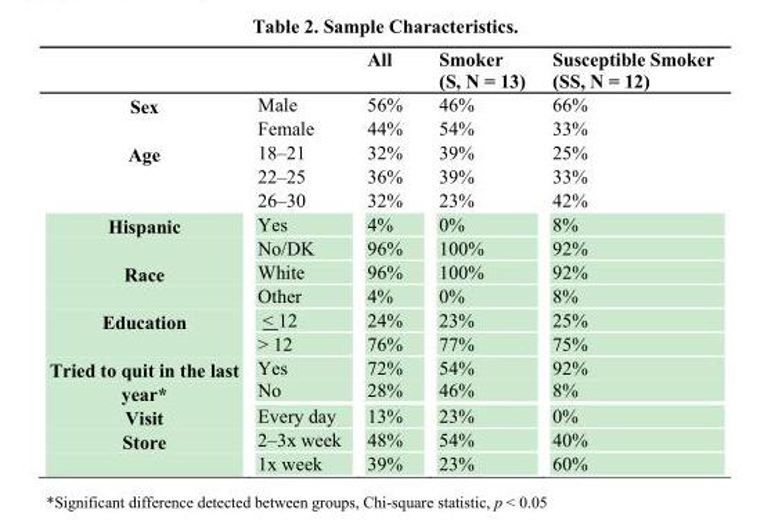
<table><thead><tr><td></td><td></td><td>All</td><td>Smoker (S, N = 13)</td><td>Susceptible Smoker (SS, N = 12)</td></tr></thead><tbody><tr><td rowspan="2">Sex</td><td>Male</td><td>56%</td><td>46%</td><td>66%</td></tr><tr><td>Female</td><td>44%</td><td>54%</td><td>33%</td></tr><tr><td rowspan="3">Age</td><td>18–21</td><td>32%</td><td>39%</td><td>25%</td></tr><tr><td>22–25</td><td>36%</td><td>39%</td><td>33%</td></tr><tr><td>26–30</td><td>32%</td><td>23%</td><td>42%</td></tr><tr><td rowspan="2">Hispanic</td><td>Yes</td><td>4%</td><td>0%</td><td>8%</td></tr><tr><td>No/DK</td><td>96%</td><td>100%</td><td>92%</td></tr><tr><td rowspan="2">Race</td><td>White</td><td>96%</td><td>100%</td><td>92%</td></tr><tr><td>Other</td><td>4%</td><td>0%</td><td>8%</td></tr><tr><td rowspan="2">Education</td><td>&lt; 12</td><td>24%</td><td>23%</td><td>25%</td></tr><tr><td>&gt; 12</td><td>76%</td><td>77%</td><td>75%</td></tr><tr><td rowspan="2">Tried to quit in the last year*</td><td>Yes</td><td>72%</td><td>54%</td><td>92%</td></tr><tr><td>No</td><td>28%</td><td>46%</td><td>8%</td></tr><tr><td>Visit</td><td>Every day</td><td>13%</td><td>23%</td><td>0%</td></tr><tr><td rowspan="2">Store</td><td>2–3x week</td><td>48%</td><td>54%</td><td>40%</td></tr><tr><td>1x week</td><td>39%</td><td>23%</td><td>60%</td></tr></tbody></table>